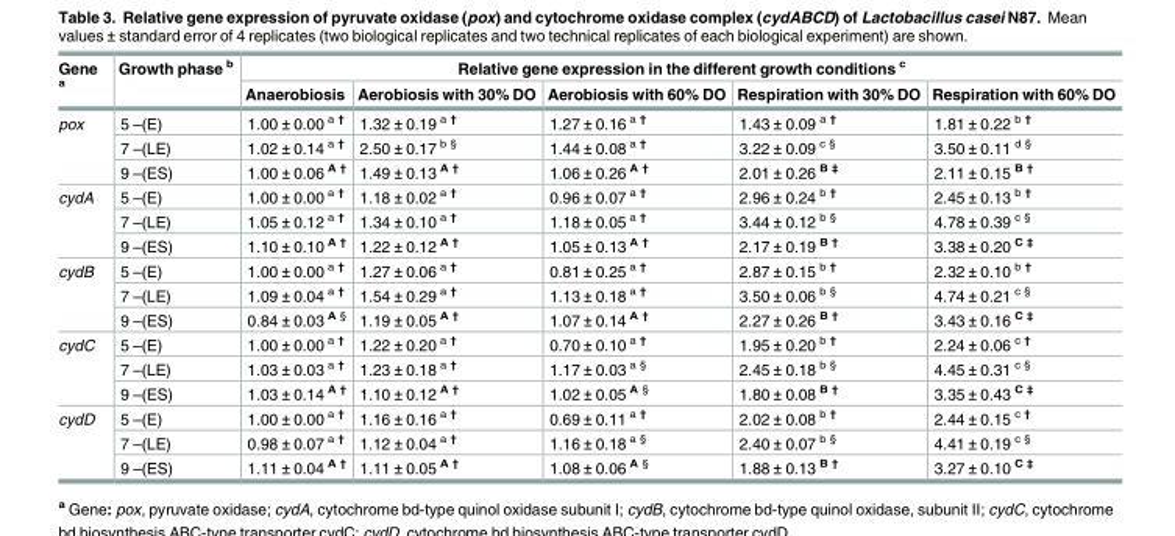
<table><thead><tr><td rowspan="2">Gene <sup>a</sup></td><td rowspan="2">Growth phase <sup>b</sup></td><td colspan="5">Relative gene expression in the different growth conditions <sup>c</sup></td></tr><tr><td>Anaerobiosis</td><td>Aerobiosis with 30% DO</td><td>Aerobiosis with 60% DO</td><td>Respiration with 30% DO</td><td>Respiration with 60% DO</td></tr></thead><tbody><tr><td rowspan="3">pox</td><td>5 –(E)</td><td>1.00 ± 0.00 <sup>a †</sup></td><td>1.32 ± 0.19 <sup>a †</sup></td><td>1.27 ± 0.16 <sup>a †</sup></td><td>1.43 ± 0.09 <sup>a †</sup></td><td>1.81 ± 0.22 <sup>b †</sup></td></tr><tr><td>7 –(LE)</td><td>1.02 ± 0.14 <sup>a †</sup></td><td>2.50 ± 0.17 <sup>b §</sup></td><td>1.44 ± 0.08 <sup>a †</sup></td><td>3.22 ± 0.09 <sup>c §</sup></td><td>3.50 ± 0.11 <sup>d §</sup></td></tr><tr><td>9 –(ES)</td><td>1.00 ± 0.06 <sup>A †</sup></td><td>1.49 ± 0.13 <sup>A †</sup></td><td>1.06 ± 0.26 <sup>A †</sup></td><td>2.01 ± 0.26 <sup>B ‡</sup></td><td>2.11 ± 0.15 <sup>B †</sup></td></tr><tr><td rowspan="3">cydA</td><td>5 –(E)</td><td>1.00 ± 0.00 <sup>a †</sup></td><td>1.18 ± 0.02 <sup>a †</sup></td><td>0.96 ± 0.07 <sup>a †</sup></td><td>2.96 ± 0.24 <sup>b †</sup></td><td>2.45 ± 0.13 <sup>b †</sup></td></tr><tr><td>7 –(LE)</td><td>1.05 ± 0.12 <sup>a †</sup></td><td>1.34 ± 0.10 <sup>a †</sup></td><td>1.18 ± 0.05 <sup>a †</sup></td><td>3.44 ± 0.12 <sup>b §</sup></td><td>4.78 ± 0.39 <sup>c §</sup></td></tr><tr><td>9 –(ES)</td><td>1.10 ± 0.10 <sup>A †</sup></td><td>1.22 ± 0.12 <sup>A †</sup></td><td>1.05 ± 0.13 <sup>A †</sup></td><td>2.17 ± 0.19 <sup>B †</sup></td><td>3.38 ± 0.20 <sup>C ‡</sup></td></tr><tr><td rowspan="3">cydB</td><td>5 –(E)</td><td>1.00 ± 0.00 <sup>a †</sup></td><td>1.27 ± 0.06 <sup>a †</sup></td><td>0.81 ± 0.25 <sup>a †</sup></td><td>2.87 ± 0.15 <sup>b †</sup></td><td>2.32 ± 0.10 <sup>b †</sup></td></tr><tr><td>7 –(LE)</td><td>1.09 ± 0.04 <sup>a †</sup></td><td>1.54 ± 0.29 <sup>a †</sup></td><td>1.13 ± 0.18 <sup>a †</sup></td><td>3.50 ± 0.06 <sup>b §</sup></td><td>4.74 ± 0.21 <sup>c §</sup></td></tr><tr><td>9 –(ES)</td><td>0.84 ± 0.03 <sup>A §</sup></td><td>1.19 ± 0.05 <sup>A †</sup></td><td>1.07 ± 0.14 <sup>A †</sup></td><td>2.27 ± 0.26 <sup>B †</sup></td><td>3.43 ± 0.16 <sup>C ‡</sup></td></tr><tr><td rowspan="3">cydC</td><td>5 –(E)</td><td>1.00 ± 0.00 <sup>a †</sup></td><td>1.22 ± 0.20 <sup>a †</sup></td><td>0.70 ± 0.10 <sup>a †</sup></td><td>1.95 ± 0.20 <sup>b †</sup></td><td>2.24 ± 0.06 <sup>c †</sup></td></tr><tr><td>7 –(LE)</td><td>1.03 ± 0.03 <sup>a †</sup></td><td>1.23 ± 0.18 <sup>a †</sup></td><td>1.17 ± 0.03 <sup>a §</sup></td><td>2.45 ± 0.18 <sup>b §</sup></td><td>4.45 ± 0.31 <sup>c §</sup></td></tr><tr><td>9 –(ES)</td><td>1.03 ± 0.14 <sup>A †</sup></td><td>1.10 ± 0.12 <sup>A †</sup></td><td>1.02 ± 0.05 <sup>A §</sup></td><td>1.80 ± 0.08 <sup>B †</sup></td><td>3.35 ± 0.43 <sup>C ‡</sup></td></tr><tr><td rowspan="3">cydD</td><td>5 –(E)</td><td>1.00 ± 0.00 <sup>a †</sup></td><td>1.16 ± 0.16 <sup>a †</sup></td><td>0.69 ± 0.11 <sup>a †</sup></td><td>2.02 ± 0.08 <sup>b †</sup></td><td>2.44 ± 0.15 <sup>c †</sup></td></tr><tr><td>7 –(LE)</td><td>0.98 ± 0.07 <sup>a †</sup></td><td>1.12 ± 0.04 <sup>a †</sup></td><td>1.16 ± 0.18 <sup>a §</sup></td><td>2.40 ± 0.07 <sup>b §</sup></td><td>4.41 ± 0.19 <sup>c §</sup></td></tr><tr><td>9 –(ES)</td><td>1.11 ± 0.04 <sup>A †</sup></td><td>1.11 ± 0.05 <sup>A †</sup></td><td>1.08 ± 0.06 <sup>A §</sup></td><td>1.88 ± 0.13 <sup>B †</sup></td><td>3.27 ± 0.10 <sup>C ‡</sup></td></tr></tbody></table>